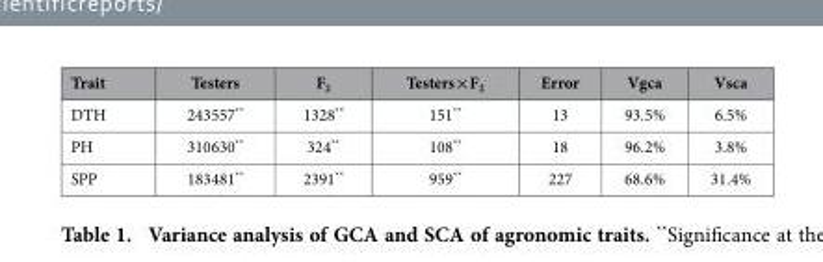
<table><thead><tr><td>Trait</td><td>Testers</td><td>F<sub>2</sub></td><td>Testers×F<sub>2</sub></td><td>Error</td><td>Vgca</td><td>Vsca</td></tr></thead><tbody><tr><td>DTH</td><td>243557**</td><td>1328**</td><td>151**</td><td>13</td><td>93.5%</td><td>6.5%</td></tr><tr><td>PH</td><td>310630**</td><td>324**</td><td>108**</td><td>18</td><td>96.2%</td><td>3.8%</td></tr><tr><td>SPP</td><td>183481**</td><td>2391**</td><td>959**</td><td>227</td><td>68.6%</td><td>31.4%</td></tr></tbody></table>